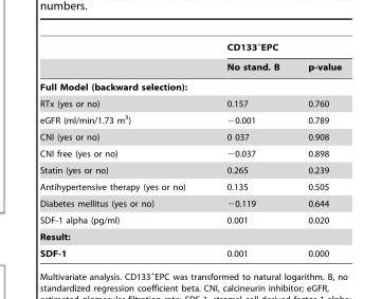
<table><thead><tr><td rowspan="2"></td><td colspan="2">CD133<sup>+</sup>EPC</td></tr><tr><td>No stand. B</td><td>p-value</td></tr></thead><tbody><tr><td colspan="3">Full Model (backward selection):</td></tr><tr><td>RTx (yes or no)</td><td>0.157</td><td>0.760</td></tr><tr><td>eGFR (ml/min/1.73 m<sup>3</sup>)</td><td>−0.001</td><td>0.789</td></tr><tr><td>CNI (yes or no)</td><td>0 037</td><td>0.908</td></tr><tr><td>CNI free (yes or no)</td><td>−0.037</td><td>0.898</td></tr><tr><td>Statin (yes or no)</td><td>0.265</td><td>0.239</td></tr><tr><td>Antihypertensive therapy (yes or no)</td><td>0.135</td><td>0.505</td></tr><tr><td>Diabetes mellitus (yes or no)</td><td>−0.119</td><td>0.644</td></tr><tr><td>SDF-1 alpha (pg/ml)</td><td>0.001</td><td>0.020</td></tr><tr><td colspan="3">Result:</td></tr><tr><td>SDF-1</td><td>0.001</td><td>0.000</td></tr></tbody></table>